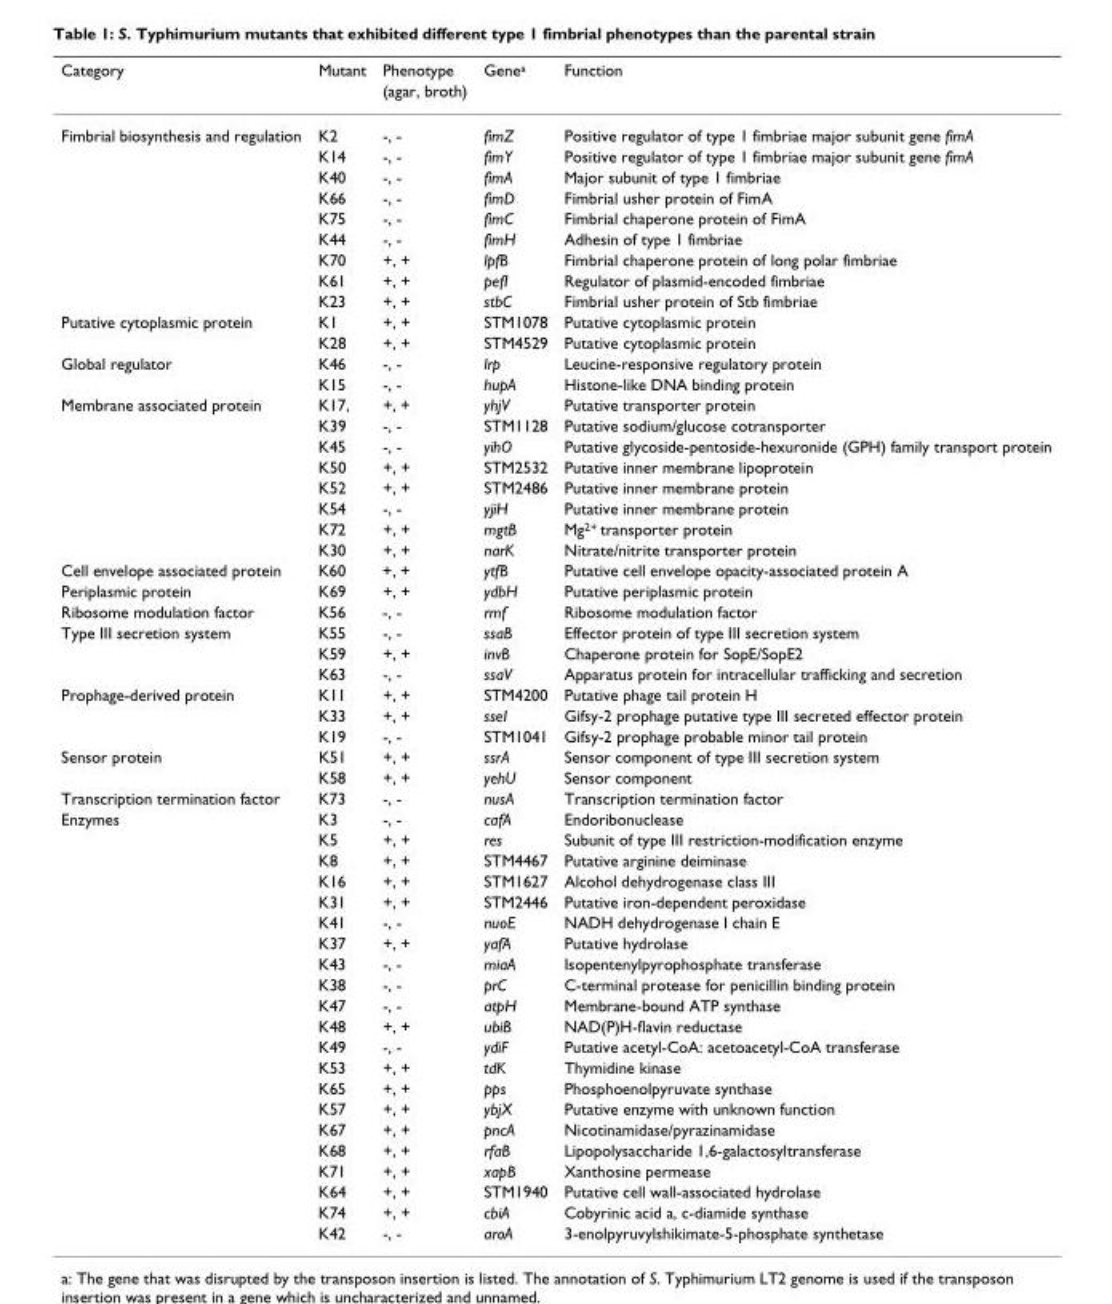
<table><thead><tr><td rowspan="2">Category</td><td rowspan="2">Mutant</td><td rowspan="2">Phenotype (agar, broth)</td><td rowspan="2">Gene<sup>a</sup></td><td rowspan="2">Function</td></tr><tr></tr></thead><tbody><tr><td rowspan="9">Fimbrial biosynthesis and regulation</td><td>K2</td><td>-, -</td><td>fimZ</td><td>Positive regulator of type 1 fimbriae major subunit gene fimA</td></tr><tr><td>K14</td><td>-, -</td><td>fimY</td><td>Positive regulator of type 1 fimbriae major subunit gene fimA</td></tr><tr><td>K40</td><td>-, -</td><td>fimA</td><td>Major subunit of type 1 fimbriae</td></tr><tr><td>K66</td><td>-, -</td><td>fimD</td><td>Fimbrial usher protein of FimA</td></tr><tr><td>K75</td><td>-, -</td><td>fimC</td><td>Fimbrial chaperone protein of FimA</td></tr><tr><td>K44</td><td>-, -</td><td>fimH</td><td>Adhesin of type 1 fimbriae</td></tr><tr><td>K70</td><td>+, +</td><td>lpfB</td><td>Fimbrial chaperone protein of long polar fimbriae</td></tr><tr><td>K61</td><td>+, +</td><td>pefI</td><td>Regulator of plasmid-encoded fimbriae</td></tr><tr><td>K23</td><td>+, +</td><td>stbC</td><td>Fimbrial usher protein of Stb fimbriae</td></tr><tr><td rowspan="2">Putative cytoplasmic protein</td><td>K1</td><td>+, +</td><td>STM1078</td><td>Putative cytoplasmic protein</td></tr><tr><td>K28</td><td>+, +</td><td>STM4529</td><td>Putative cytoplasmic protein</td></tr><tr><td rowspan="2">Global regulator</td><td>K46</td><td>-, -</td><td>lrp</td><td>Leucine-responsive regulatory protein</td></tr><tr><td>K15</td><td>-, -</td><td>hupA</td><td>Histone-like DNA binding protein</td></tr><tr><td rowspan="8">Membrane associated protein</td><td>K17,</td><td>+, +</td><td>yhjV</td><td>Putative transporter protein</td></tr><tr><td>K39</td><td>-, -</td><td>STM1128</td><td>Putative sodium/glucose cotransporter</td></tr><tr><td>K45</td><td>-, -</td><td>yihO</td><td>Putative glycoside-pentoside-hexuronide (GPH) family transport protein</td></tr><tr><td>K50</td><td>+, +</td><td>STM2532</td><td>Putative inner membrane lipoprotein</td></tr><tr><td>K52</td><td>+, +</td><td>STM2486</td><td>Putative inner membrane protein</td></tr><tr><td>K54</td><td>-, -</td><td>yjiH</td><td>Putative inner membrane protein</td></tr><tr><td>K72</td><td>+, +</td><td>mgtB</td><td>Mg<sup>2+</sup> transporter protein</td></tr><tr><td>K30</td><td>+, +</td><td>narK</td><td>Nitrate/nitrite transporter protein</td></tr><tr><td>Cell envelope associated protein</td><td>K60</td><td>+, +</td><td>ytfB</td><td>Putative cell envelope opacity-associated protein A</td></tr><tr><td>Periplasmic protein</td><td>K69</td><td>+, +</td><td>ydbH</td><td>Putative periplasmic protein</td></tr><tr><td>Ribosome modulation factor</td><td>K56</td><td>-, -</td><td>rmf</td><td>Ribosome modulation factor</td></tr><tr><td rowspan="3">Type III secretion system</td><td>K55</td><td>-, -</td><td>ssaB</td><td>Effector protein of type III secretion system</td></tr><tr><td>K59</td><td>+, +</td><td>invB</td><td>Chaperone protein for SopE/SopE2</td></tr><tr><td>K63</td><td>-, -</td><td>ssaV</td><td>Apparatus protein for intracellular trafficking and secretion</td></tr><tr><td rowspan="3">Prophage-derived protein</td><td>K11</td><td>+, +</td><td>STM4200</td><td>Putative phage tail protein H</td></tr><tr><td>K33</td><td>+, +</td><td>sseI</td><td>Gifsy-2 prophage putative type III secreted effector protein</td></tr><tr><td>K19</td><td>-, -</td><td>STM1041</td><td>Gifsy-2 prophage probable minor tail protein</td></tr><tr><td rowspan="2">Sensor protein</td><td>K51</td><td>+, +</td><td>ssrA</td><td>Sensor component of type III secretion system</td></tr><tr><td>K58</td><td>+, +</td><td>yehU</td><td>Sensor component</td></tr><tr><td>Transcription termination factor</td><td>K73</td><td>-, -</td><td>nusA</td><td>Transcription termination factor</td></tr><tr><td rowspan="21">Enzymes</td><td>K3</td><td>-, -</td><td>cafA</td><td>Endoribonuclease</td></tr><tr><td>K5</td><td>+, +</td><td>res</td><td>Subunit of type III restriction-modification enzyme</td></tr><tr><td>K8</td><td>+, +</td><td>STM4467</td><td>Putative arginine deiminase</td></tr><tr><td>K16</td><td>+, +</td><td>STM1627</td><td>Alcohol dehydrogenase class III</td></tr><tr><td>K31</td><td>+, +</td><td>STM2446</td><td>Putative iron-dependent peroxidase</td></tr><tr><td>K41</td><td>-, -</td><td>nuoE</td><td>NADH dehydrogenase I chain E</td></tr><tr><td>K37</td><td>+, +</td><td>yafA</td><td>Putative hydrolase</td></tr><tr><td>K43</td><td>-, -</td><td>miaA</td><td>Isopentenylpyrophosphate transferase</td></tr><tr><td>K38</td><td>-, -</td><td>prC</td><td>C-terminal protease for penicillin binding protein</td></tr><tr><td>K47</td><td>-, -</td><td>atpH</td><td>Membrane-bound ATP synthase</td></tr><tr><td>K48</td><td>+, +</td><td>ubiB</td><td>NAD(P)H-flavin reductase</td></tr><tr><td>K49</td><td>-, -</td><td>ydiF</td><td>Putative acetyl-CoA: acetoacetyl-CoA transferase</td></tr><tr><td>K53</td><td>+, +</td><td>tdK</td><td>Thymidine kinase</td></tr><tr><td>K65</td><td>+, +</td><td>pps</td><td>Phosphoenolpyruvate synthase</td></tr><tr><td>K57</td><td>+, +</td><td>ybjX</td><td>Putative enzyme with unknown function</td></tr><tr><td>K67</td><td>+, +</td><td>pncA</td><td>Nicotinamidase/pyrazinamidase</td></tr><tr><td>K68</td><td>+, +</td><td>rfaB</td><td>Lipopolysaccharide 1,6-galactosyltransferase</td></tr><tr><td>K71</td><td>+, +</td><td>xapB</td><td>Xanthosine permease</td></tr><tr><td>K64</td><td>+, +</td><td>STM1940</td><td>Putative cell wall-associated hydrolase</td></tr><tr><td>K74</td><td>+, +</td><td>cbiA</td><td>Cobyrinic acid a, c-diamide synthase</td></tr><tr><td>K42</td><td>-, -</td><td>aroA</td><td>3-enolpyruvylshikimate-5-phosphate synthetase</td></tr></tbody></table>